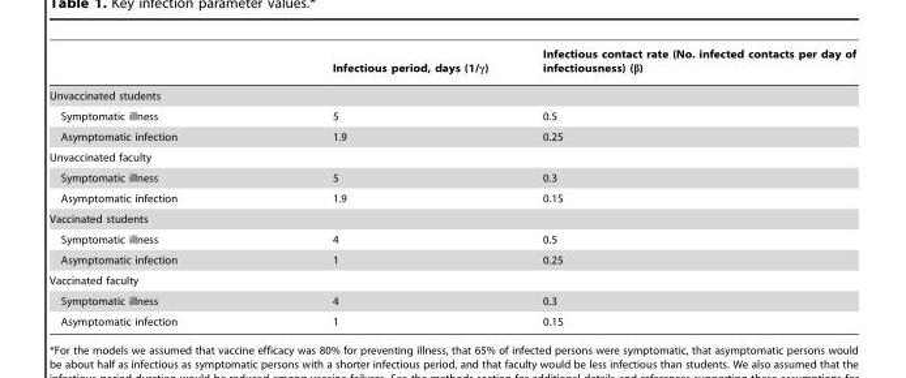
<table><thead><tr><td></td><td>Infectious period, days (1/γ)</td><td>Infectious contact rate (No. infected contacts per day of infectiousness) (β)</td></tr></thead><tbody><tr><td colspan="3">Unvaccinated students</td></tr><tr><td>Symptomatic illness</td><td>5</td><td>0.5</td></tr><tr><td>Asymptomatic infection</td><td>1.9</td><td>0.25</td></tr><tr><td colspan="3">Unvaccinated faculty</td></tr><tr><td>Symptomatic illness</td><td>5</td><td>0.3</td></tr><tr><td>Asymptomatic infection</td><td>1.9</td><td>0.15</td></tr><tr><td colspan="3">Vaccinated students</td></tr><tr><td>Symptomatic illness</td><td>4</td><td>0.5</td></tr><tr><td>Asymptomatic infection</td><td>1</td><td>0.25</td></tr><tr><td colspan="3">Vaccinated faculty</td></tr><tr><td>Symptomatic illness</td><td>4</td><td>0.3</td></tr><tr><td>Asymptomatic infection</td><td>1</td><td>0.15</td></tr></tbody></table>